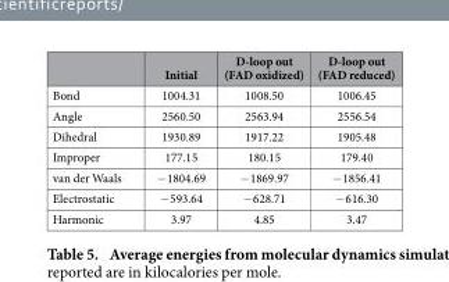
<table><thead><tr><td></td><td>Initial</td><td>D-loop out (FAD oxidized)</td><td>D-loop out (FAD reduced)</td></tr></thead><tbody><tr><td>Bond</td><td>1004.31</td><td>1008.50</td><td>1006.45</td></tr><tr><td>Angle</td><td>2560.50</td><td>2563.94</td><td>2556.54</td></tr><tr><td>Dihedral</td><td>1930.89</td><td>1917.22</td><td>1905.48</td></tr><tr><td>Improper</td><td>177.15</td><td>180.15</td><td>179.40</td></tr><tr><td>van der Waals</td><td>− 1804.69</td><td>− 1869.97</td><td>− 1856.41</td></tr><tr><td>Electrostatic</td><td>− 593.64</td><td>− 628.71</td><td>− 616.30</td></tr><tr><td>Harmonic</td><td>3.97</td><td>4.85</td><td>3.47</td></tr></tbody></table>